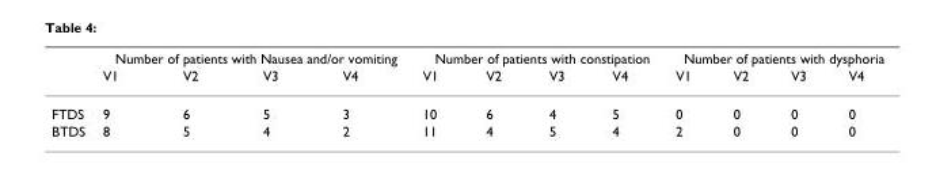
<table><thead><tr><td rowspan="2"></td><td colspan="4">Number of patients with Nausea and/or vomiting</td><td colspan="4">Number of patients with constipation</td><td colspan="4">Number of patients with dysphoria</td></tr><tr><td>V1</td><td>V2</td><td>V3</td><td>V4</td><td>V1</td><td>V2</td><td>V3</td><td>V4</td><td>V1</td><td>V2</td><td>V3</td><td>V4</td></tr></thead><tbody><tr><td>FTDS</td><td>9</td><td>6</td><td>5</td><td>3</td><td>10</td><td>6</td><td>4</td><td>5</td><td>0</td><td>0</td><td>0</td><td>0</td></tr><tr><td>BTDS</td><td>8</td><td>5</td><td>4</td><td>2</td><td>11</td><td>4</td><td>5</td><td>4</td><td>2</td><td>0</td><td>0</td><td>0</td></tr></tbody></table>